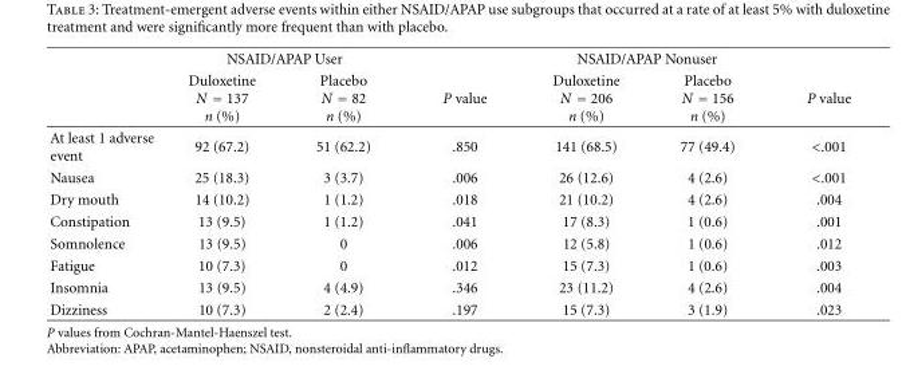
<table><thead><tr><td rowspan="2"></td><td colspan="2">NSAID/APAP User</td><td rowspan="2">P value</td><td colspan="2">NSAID/APAP Nonuser</td><td rowspan="2">P value</td></tr><tr><td>Duloxetine N = 137 n (%)</td><td>Placebo N = 82 n (%)</td><td>Duloxetine N = 206 n (%)</td><td>Placebo N = 156 n (%)</td></tr></thead><tbody><tr><td>At least 1 adverse event</td><td>92 (67.2)</td><td>51 (62.2)</td><td>.850</td><td>141 (68.5)</td><td>77 (49.4)</td><td>&lt;.001</td></tr><tr><td>Nausea</td><td>25 (18.3)</td><td>3 (3.7)</td><td>.006</td><td>26 (12.6)</td><td>4 (2.6)</td><td>&lt;.001</td></tr><tr><td>Dry mouth</td><td>14 (10.2)</td><td>1 (1.2)</td><td>.018</td><td>21 (10.2)</td><td>4 (2.6)</td><td>.004</td></tr><tr><td>Constipation</td><td>13 (9.5)</td><td>1 (1.2)</td><td>.041</td><td>17 (8.3)</td><td>1 (0.6)</td><td>.001</td></tr><tr><td>Somnolence</td><td>13 (9.5)</td><td>0</td><td>.006</td><td>12 (5.8)</td><td>1 (0.6)</td><td>.012</td></tr><tr><td>Fatigue</td><td>10 (7.3)</td><td>0</td><td>.012</td><td>15 (7.3)</td><td>1 (0.6)</td><td>.003</td></tr><tr><td>Insomnia</td><td>13 (9.5)</td><td>4 (4.9)</td><td>.346</td><td>23 (11.2)</td><td>4 (2.6)</td><td>.004</td></tr><tr><td>Dizziness</td><td>10 (7.3)</td><td>2 (2.4)</td><td>.197</td><td>15 (7.3)</td><td>3 (1.9)</td><td>.023</td></tr></tbody></table>